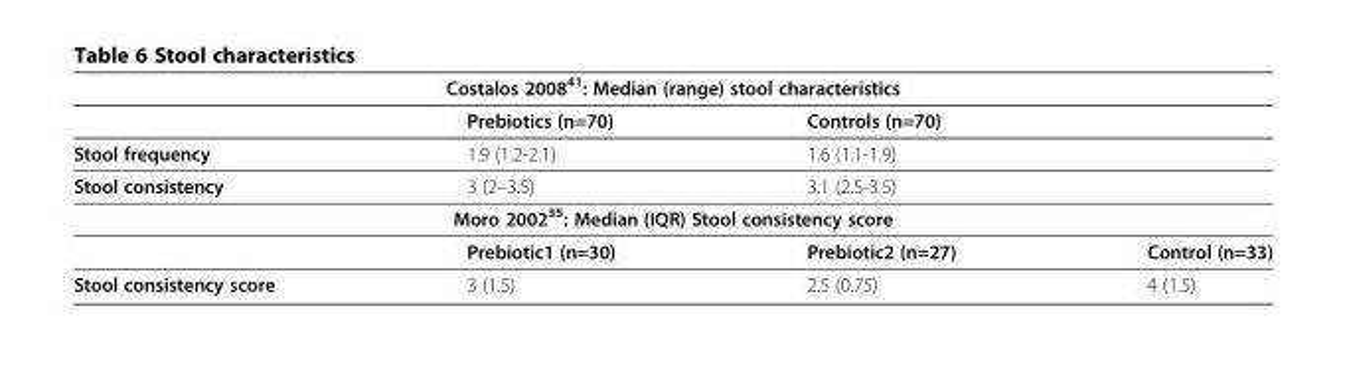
<table><thead><tr><td colspan="4">Costalos 2008<sup>41</sup>: Median (range) stool characteristics</td></tr><tr><td></td><td>Prebiotics (n=70)</td><td>Controls (n=70)</td><td></td></tr></thead><tbody><tr><td>Stool frequency</td><td>1.9 (1.2-2.1)</td><td>1.6 (1.1-1.9)</td><td></td></tr><tr><td>Stool consistency</td><td>3 (2–3.5)</td><td>3.1 (2.5-3.5)</td><td></td></tr><tr><td colspan="4">Moro 2002<sup>35</sup>: Median (IQR) Stool consistency score</td></tr><tr><td></td><td>Prebiotic1 (n=30)</td><td>Prebiotic2 (n=27)</td><td>Control (n=33)</td></tr><tr><td>Stool consistency score</td><td>3 (1.5)</td><td>2.5 (0.75)</td><td>4 (1.5)</td></tr></tbody></table>